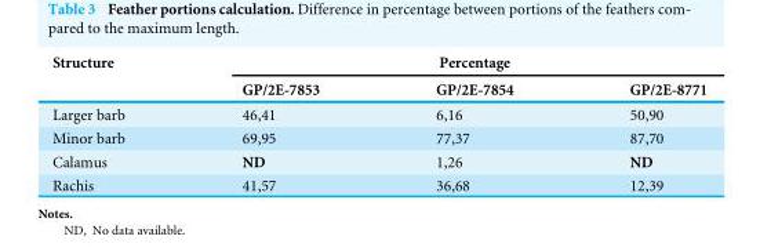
<table><thead><tr><td rowspan="2">Structure</td><td colspan="3">Percentage</td></tr><tr><td>GP/2E-7853</td><td>GP/2E-7854</td><td>GP/2E-8771</td></tr></thead><tbody><tr><td>Larger barb</td><td>46,41</td><td>6,16</td><td>50,90</td></tr><tr><td>Minor barb</td><td>69,95</td><td>77,37</td><td>87,70</td></tr><tr><td>Calamus</td><td>ND</td><td>1,26</td><td>ND</td></tr><tr><td>Rachis</td><td>41,57</td><td>36,68</td><td>12,39</td></tr></tbody></table>